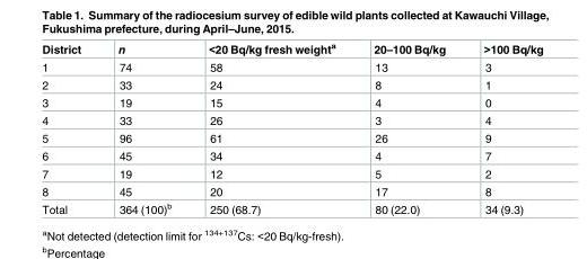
<table><thead><tr><td>District</td><td>n</td><td>&lt;20 Bq/kg fresh weight<sup>a</sup></td><td>20–100 Bq/kg</td><td>&gt;100 Bq/kg</td></tr></thead><tbody><tr><td>1</td><td>74</td><td>58</td><td>13</td><td>3</td></tr><tr><td>2</td><td>33</td><td>24</td><td>8</td><td>1</td></tr><tr><td>3</td><td>19</td><td>15</td><td>4</td><td>0</td></tr><tr><td>4</td><td>33</td><td>26</td><td>3</td><td>4</td></tr><tr><td>5</td><td>96</td><td>61</td><td>26</td><td>9</td></tr><tr><td>6</td><td>45</td><td>34</td><td>4</td><td>7</td></tr><tr><td>7</td><td>19</td><td>12</td><td>5</td><td>2</td></tr><tr><td>8</td><td>45</td><td>20</td><td>17</td><td>8</td></tr><tr><td>Total</td><td>364 (100)<sup>b</sup></td><td>250 (68.7)</td><td>80 (22.0)</td><td>34 (9.3)</td></tr></tbody></table>